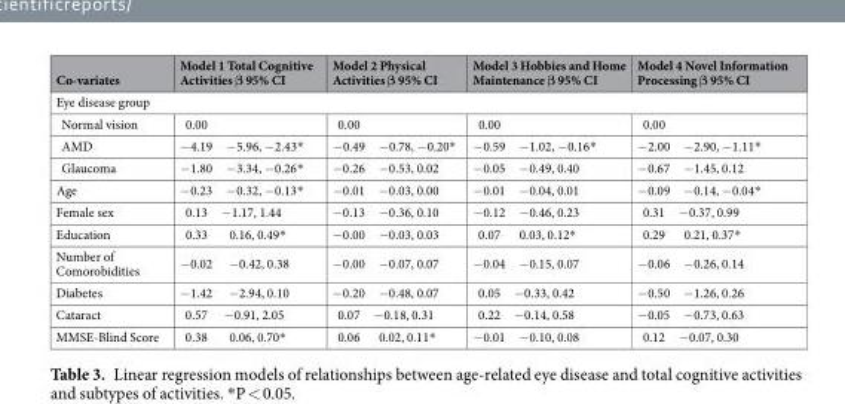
<table><thead><tr><td>Co-variates</td><td>Model 1 Total Cognitive Activities β 95% CI</td><td>Model 2 Physical Activities β 95% CI</td><td>Model 3 Hobbies and Home Maintenance β 95% CI</td><td>Model 4 Novel Information Processing β 95% CI</td></tr></thead><tbody><tr><td colspan="5">Eye disease group</td></tr><tr><td>Normal vision</td><td>0.00</td><td>0.00</td><td>0.00</td><td>0.00</td></tr><tr><td>AMD</td><td>−4.19 −5.96, −2.43*</td><td>−0.49 −0.78, −0.20*</td><td>−0.59 −1.02, −0.16*</td><td>−2.00 −2.90, −1.11*</td></tr><tr><td>Glaucoma</td><td>−1.80 −3.34, −0.26*</td><td>−0.26 −0.53, 0.02</td><td>−0.05 −0.49, 0.40</td><td>−0.67 −1.45, 0.12</td></tr><tr><td>Age</td><td>−0.23 −0.32, −0.13*</td><td>−0.01 −0.03, 0.00</td><td>−0.01 −0.04, 0.01</td><td>−0.09 −0.14, −0.04*</td></tr><tr><td>Female sex</td><td>0.13 −1.17, 1.44</td><td>−0.13 −0.36, 0.10</td><td>−0.12 −0.46, 0.23</td><td>0.31 −0.37, 0.99</td></tr><tr><td>Education</td><td>0.33 0.16, 0.49*</td><td>−0.00 −0.03, 0.03</td><td>0.07 0.03, 0.12*</td><td>0.29 0.21, 0.37*</td></tr><tr><td>Number of Comorobidities</td><td>−0.02 −0.42, 0.38</td><td>−0.00 −0.07, 0.07</td><td>−0.04 −0.15, 0.07</td><td>−0.06 −0.26, 0.14</td></tr><tr><td>Diabetes</td><td>−1.42 −2.94, 0.10</td><td>−0.20 −0.48, 0.07</td><td>0.05 −0.33, 0.42</td><td>−0.50 −1.26, 0.26</td></tr><tr><td>Cataract</td><td>0.57 −0.91, 2.05</td><td>0.07 −0.18, 0.31</td><td>0.22 −0.14, 0.58</td><td>−0.05 −0.73, 0.63</td></tr><tr><td>MMSE-Blind Score</td><td>0.38 0.06, 0.70*</td><td>0.06 0.02, 0.11*</td><td>−0.01 −0.10, 0.08</td><td>0.12 −0.07, 0.30</td></tr></tbody></table>